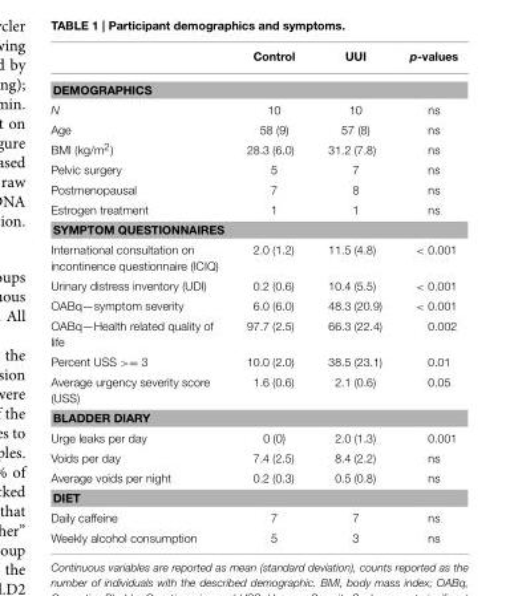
<table><thead><tr><td></td><td>Control</td><td>UUI</td><td>p-values</td></tr></thead><tbody><tr><td colspan="4">DEMOGRAPHICS</td></tr><tr><td>N</td><td>10</td><td>10</td><td>ns</td></tr><tr><td>Age</td><td>58 (9)</td><td>57 (8)</td><td>ns</td></tr><tr><td>BMI (kg/m<sup>2</sup>)</td><td>28.3 (6.0)</td><td>31.2 (7.8)</td><td>ns</td></tr><tr><td>Pelvic surgery</td><td>5</td><td>7</td><td>ns</td></tr><tr><td>Postmenopausal</td><td>7</td><td>8</td><td>ns</td></tr><tr><td>Estrogen treatment</td><td>1</td><td>1</td><td>ns</td></tr><tr><td colspan="4">SYMPTOM QUESTIONNAIRES</td></tr><tr><td>International consultation on incontinence questionnaire (ICIQ)</td><td>2.0 (1.2)</td><td>11.5 (4.8)</td><td>&lt; 0.001</td></tr><tr><td>Urinary distress inventory (UDI)</td><td>0.2 (0.6)</td><td>10.4 (5.5)</td><td>&lt; 0.001</td></tr><tr><td>OABq—symptom severity</td><td>6.0 (6.0)</td><td>48.3 (20.9)</td><td>&lt; 0.001</td></tr><tr><td>OABq—Health related quality of life</td><td>97.7 (2.5)</td><td>66.3 (22.4)</td><td>0.002</td></tr><tr><td>Percent USS &gt;= 3</td><td>10.0 (2.0)</td><td>38.5 (23.1)</td><td>0.01</td></tr><tr><td>Average urgency severity score (USS)</td><td>1.6 (0.6)</td><td>2.1 (0.6)</td><td>0.05</td></tr><tr><td colspan="4">BLADDER DIARY</td></tr><tr><td>Urge leaks per day</td><td>0 (0)</td><td>2.0 (1.3)</td><td>0.001</td></tr><tr><td>Voids per day</td><td>7.4 (2.5)</td><td>8.4 (2.2)</td><td>ns</td></tr><tr><td>Average voids per night</td><td>0.2 (0.3)</td><td>0.5 (0.8)</td><td>ns</td></tr><tr><td colspan="4">DIET</td></tr><tr><td>Daily caffeine</td><td>7</td><td>7</td><td>ns</td></tr><tr><td>Weekly alcohol consumption</td><td>5</td><td>3</td><td>ns</td></tr></tbody></table>